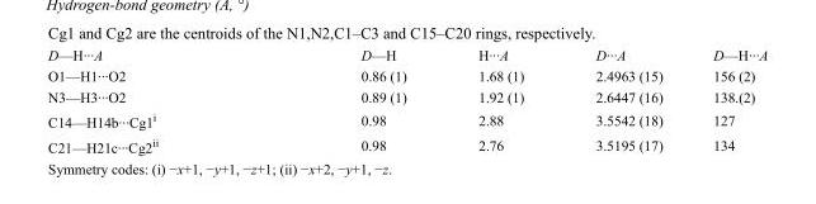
<table><tbody><tr><td>D—H···A</td><td>D—H</td><td>H···A</td><td>D···A</td><td>D—H···A</td></tr><tr><td>O1—H1···O2</td><td>0.86 (1)</td><td>1.68 (1)</td><td>2.4963 (15)</td><td>156 (2)</td></tr><tr><td>N3—H3···O2</td><td>0.89 (1)</td><td>1.92 (1)</td><td>2.6447 (16)</td><td>138.(2)</td></tr><tr><td>C14—H14b···Cg1<sup>i</sup></td><td>0.98</td><td>2.88</td><td>3.5542 (18)</td><td>127</td></tr><tr><td>C21—H21c···Cg2<sup>ii</sup></td><td>0.98</td><td>2.76</td><td>3.5195 (17)</td><td>134</td></tr></tbody></table>